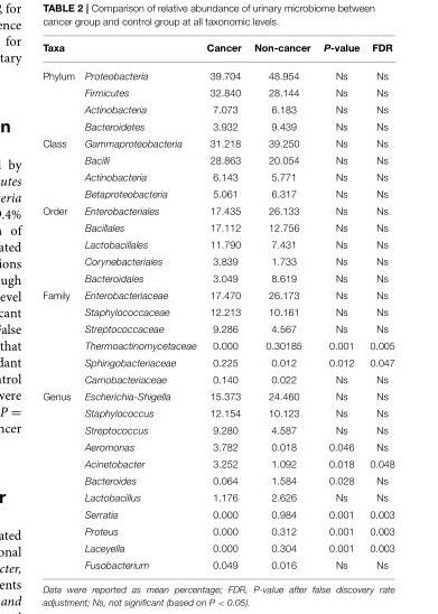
<table><thead><tr><td>Taxa</td><td></td><td>Cancer</td><td>Non-cancer</td><td>P-value</td><td>FDR</td></tr></thead><tbody><tr><td rowspan="4">Phylum</td><td>Proteobacteria</td><td>39.704</td><td>48.954</td><td>Ns</td><td>Ns</td></tr><tr><td>Firmicutes</td><td>32.840</td><td>28.144</td><td>Ns</td><td>Ns</td></tr><tr><td>Actinobacteria</td><td>7.073</td><td>6.183</td><td>Ns</td><td>Ns</td></tr><tr><td>Bacteroidetes</td><td>3.932</td><td>9.439</td><td>Ns</td><td>Ns</td></tr><tr><td rowspan="4">Class</td><td>Gammaproteobacteria</td><td>31.218</td><td>39.250</td><td>Ns</td><td>Ns</td></tr><tr><td>Bacilli</td><td>28.863</td><td>20.054</td><td>Ns</td><td>Ns</td></tr><tr><td>Actinobacteria</td><td>6.143</td><td>5.771</td><td>Ns</td><td>Ns</td></tr><tr><td>Betaproteobacteria</td><td>5.061</td><td>6.317</td><td>Ns</td><td>Ns</td></tr><tr><td rowspan="5">Order</td><td>Enterobacteriales</td><td>17.435</td><td>26.133</td><td>Ns</td><td>Ns</td></tr><tr><td>Bacillales</td><td>17.112</td><td>12.756</td><td>Ns</td><td>Ns</td></tr><tr><td>Lactobacillales</td><td>11.790</td><td>7.431</td><td>Ns</td><td>Ns</td></tr><tr><td>Corynebacteriales</td><td>3.839</td><td>1.733</td><td>Ns</td><td>Ns</td></tr><tr><td>Bacteroidales</td><td>3.049</td><td>8.619</td><td>Ns</td><td>Ns</td></tr><tr><td rowspan="6">Family</td><td>Enterobacteriaceae</td><td>17.470</td><td>26.173</td><td>Ns</td><td>Ns</td></tr><tr><td>Staphylococcaceae</td><td>12.213</td><td>10.161</td><td>Ns</td><td>Ns</td></tr><tr><td>Streptococcaceae</td><td>9.286</td><td>4.567</td><td>Ns</td><td>Ns</td></tr><tr><td>Thermoactinomycetaceae</td><td>0.000</td><td>0.30185</td><td>0.001</td><td>0.005</td></tr><tr><td>Sphingobacteriaceae</td><td>0.225</td><td>0.012</td><td>0.012</td><td>0.047</td></tr><tr><td>Carnobacteriaceae</td><td>0.140</td><td>0.022</td><td>Ns</td><td>Ns</td></tr><tr><td rowspan="11">Genus</td><td>Escherichia-Shigella</td><td>15.373</td><td>24.460</td><td>Ns</td><td>Ns</td></tr><tr><td>Staphylococcus</td><td>12.154</td><td>10.123</td><td>Ns</td><td>Ns</td></tr><tr><td>Streptococcus</td><td>9.280</td><td>4.587</td><td>Ns</td><td>Ns</td></tr><tr><td>Aeromonas</td><td>3.782</td><td>0.018</td><td>0.046</td><td>Ns</td></tr><tr><td>Acinetobacter</td><td>3.252</td><td>1.092</td><td>0.018</td><td>0.048</td></tr><tr><td>Bacteroides</td><td>0.064</td><td>1.584</td><td>0.028</td><td>Ns</td></tr><tr><td>Lactobacillus</td><td>1.176</td><td>2.626</td><td>Ns</td><td>Ns</td></tr><tr><td>Serratia</td><td>0.000</td><td>0.984</td><td>0.001</td><td>0.003</td></tr><tr><td>Proteus</td><td>0.000</td><td>0.312</td><td>0.001</td><td>0.003</td></tr><tr><td>Laceyella</td><td>0.000</td><td>0.304</td><td>0.001</td><td>0.003</td></tr><tr><td>Fusobacterium</td><td>0.049</td><td>0.016</td><td>Ns</td><td>Ns</td></tr></tbody></table>